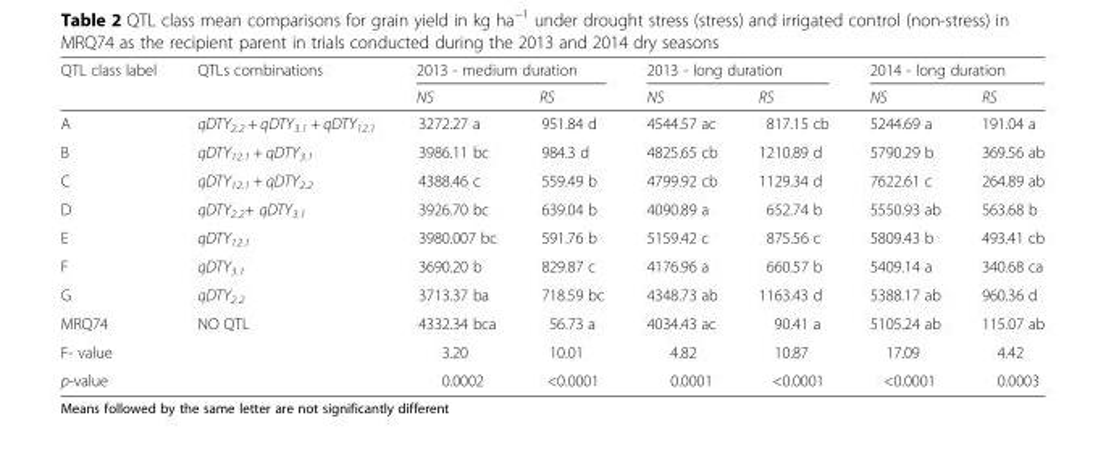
<table><thead><tr><td rowspan="2">QTL class label</td><td rowspan="2">QTLs combinations</td><td colspan="2">2013 - medium duration</td><td colspan="2">2013 - long duration</td><td colspan="2">2014 - long duration</td></tr><tr><td>NS</td><td>RS</td><td>NS</td><td>RS</td><td>NS</td><td>RS</td></tr></thead><tbody><tr><td>A</td><td>qDTY<sub>2.2</sub> + qDTY<sub>3.1</sub> + qDTY<sub>12.1</sub></td><td>3272.27 a</td><td>951.84 d</td><td>4544.57 ac</td><td>817.15 cb</td><td>5244.69 a</td><td>191.04 a</td></tr><tr><td>B</td><td>qDTY<sub>12.1</sub> + qDTY<sub>3.1</sub></td><td>3986.11 bc</td><td>984.3 d</td><td>4825.65 cb</td><td>1210.89 d</td><td>5790.29 b</td><td>369.56 ab</td></tr><tr><td>C</td><td>qDTY<sub>12.1</sub> + qDTY<sub>2.2</sub></td><td>4388.46 c</td><td>559.49 b</td><td>4799.92 cb</td><td>1129.34 d</td><td>7622.61 c</td><td>264.89 ab</td></tr><tr><td>D</td><td>qDTY<sub>2.2</sub>+ qDTY<sub>3.1</sub></td><td>3926.70 bc</td><td>639.04 b</td><td>4090.89 a</td><td>652.74 b</td><td>5550.93 ab</td><td>563.68 b</td></tr><tr><td>E</td><td>qDTY<sub>12.1</sub></td><td>3980.007 bc</td><td>591.76 b</td><td>5159.42 c</td><td>875.56 c</td><td>5809.43 b</td><td>493.41 cb</td></tr><tr><td>F</td><td>qDTY<sub>3.1</sub></td><td>3690.20 b</td><td>829.87 c</td><td>4176.96 a</td><td>660.57 b</td><td>5409.14 a</td><td>340.68 ca</td></tr><tr><td>G</td><td>qDTY<sub>2.2</sub></td><td>3713.37 ba</td><td>718.59 bc</td><td>4348.73 ab</td><td>1163.43 d</td><td>5388.17 ab</td><td>960.36 d</td></tr><tr><td>MRQ74</td><td>NO QTL</td><td>4332.34 bca</td><td>56.73 a</td><td>4034.43 ac</td><td>90.41 a</td><td>5105.24 ab</td><td>115.07 ab</td></tr><tr><td>F- value</td><td></td><td>3.20</td><td>10.01</td><td>4.82</td><td>10.87</td><td>17.09</td><td>4.42</td></tr><tr><td>p-value</td><td></td><td>0.0002</td><td>&lt;0.0001</td><td>0.0001</td><td>&lt;0.0001</td><td>&lt;0.0001</td><td>0.0003</td></tr></tbody></table>